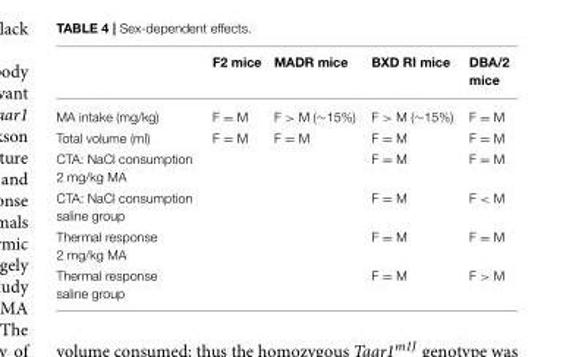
<table><thead><tr><td></td><td>F2 mice</td><td>MADR mice</td><td>BXD RI mice</td><td>DBA/2 mice</td></tr></thead><tbody><tr><td>MA intake (mg/kg)</td><td>F = M</td><td>F &gt; M (∼15%)</td><td>F &gt; M (∼15%)</td><td>F = M</td></tr><tr><td>Total volume (ml)</td><td>F = M</td><td>F = M</td><td>F = M</td><td>F = M</td></tr><tr><td>CTA: NaCl consumption 2 mg/kg MA</td><td></td><td></td><td>F = M</td><td>F = M</td></tr><tr><td>CTA: NaCl consumption saline group</td><td></td><td></td><td>F = M</td><td>F &lt; M</td></tr><tr><td>Thermal response 2 mg/kg MA</td><td></td><td></td><td>F = M</td><td>F = M</td></tr><tr><td>Thermal response saline group</td><td></td><td></td><td>F = M</td><td>F &gt; M</td></tr></tbody></table>